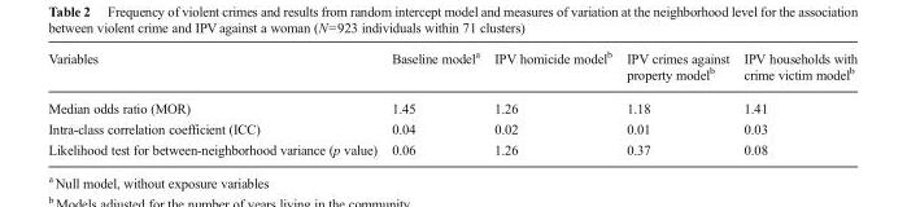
<table><thead><tr><td>Variables</td><td>Baseline model<sup>a</sup></td><td>IPV homicide model<sup>b</sup></td><td>IPV crimes against property model<sup>b</sup></td><td>IPV households with crime victim model<sup>b</sup></td></tr></thead><tbody><tr><td>Median odds ratio (MOR)</td><td>1.45</td><td>1.26</td><td>1.18</td><td>1.41</td></tr><tr><td>Intra-class correlation coefficient (ICC)</td><td>0.04</td><td>0.02</td><td>0.01</td><td>0.03</td></tr><tr><td>Likelihood test for between-neighborhood variance (p value)</td><td>0.06</td><td>1.26</td><td>0.37</td><td>0.08</td></tr></tbody></table>